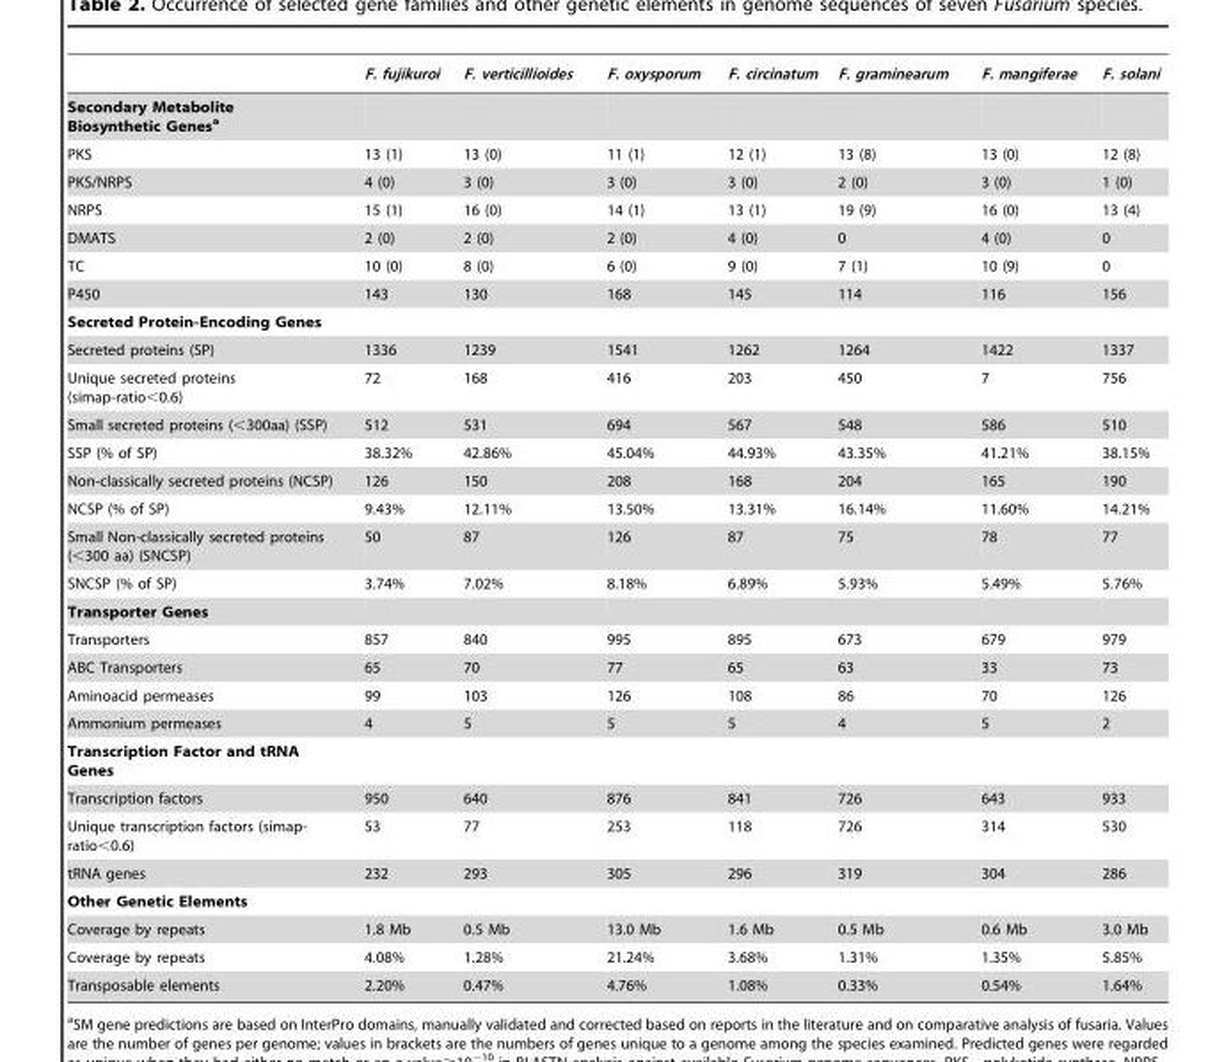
<table><thead><tr><td></td><td>F. fujikuroi</td><td>F. verticillioides</td><td>F. oxysporum</td><td>F. circinatum</td><td>F. graminearum</td><td>F. mangiferae</td><td>F. solani</td></tr></thead><tbody><tr><td colspan="8">Secondary Metabolite Biosynthetic Genesa</td></tr><tr><td>PKS</td><td>13 (1)</td><td>13 (0)</td><td>11 (1)</td><td>12 (1)</td><td>13 (8)</td><td>13 (0)</td><td>12 (8)</td></tr><tr><td>PKS/NRPS</td><td>4 (0)</td><td>3 (0)</td><td>3 (0)</td><td>3 (0)</td><td>2 (0)</td><td>3 (0)</td><td>1 (0)</td></tr><tr><td>NRPS</td><td>15 (1)</td><td>16 (0)</td><td>14 (1)</td><td>13 (1)</td><td>19 (9)</td><td>16 (0)</td><td>13 (4)</td></tr><tr><td>DMATS</td><td>2 (0)</td><td>2 (0)</td><td>2 (0)</td><td>4 (0)</td><td>0</td><td>4 (0)</td><td>0</td></tr><tr><td>TC</td><td>10 (0)</td><td>8 (0)</td><td>6 (0)</td><td>9 (0)</td><td>7 (1)</td><td>10 (9)</td><td>0</td></tr><tr><td>P450</td><td>143</td><td>130</td><td>168</td><td>145</td><td>114</td><td>116</td><td>156</td></tr><tr><td colspan="8">Secreted Protein-Encoding Genes</td></tr><tr><td>Secreted proteins (SP)</td><td>1336</td><td>1239</td><td>1541</td><td>1262</td><td>1264</td><td>1422</td><td>1337</td></tr><tr><td>Unique secreted proteins (simap-ratio&lt;0.6)</td><td>72</td><td>168</td><td>416</td><td>203</td><td>450</td><td>7</td><td>756</td></tr><tr><td>Small secreted proteins (&lt;300aa) (SSP)</td><td>512</td><td>531</td><td>694</td><td>567</td><td>548</td><td>586</td><td>510</td></tr><tr><td>SSP (% of SP)</td><td>38.32%</td><td>42.86%</td><td>45.04%</td><td>44.93%</td><td>43.35%</td><td>41.21%</td><td>38.15%</td></tr><tr><td>Non-classically secreted proteins (NCSP)</td><td>126</td><td>150</td><td>208</td><td>168</td><td>204</td><td>165</td><td>190</td></tr><tr><td>NCSP (% of SP)</td><td>9.43%</td><td>12.11%</td><td>13.50%</td><td>13.31%</td><td>16.14%</td><td>11.60%</td><td>14.21%</td></tr><tr><td>Small Non-classically secreted proteins (&lt;300 aa) (SNCSP)</td><td>50</td><td>87</td><td>126</td><td>87</td><td>75</td><td>78</td><td>77</td></tr><tr><td>SNCSP (% of SP)</td><td>3.74%</td><td>7.02%</td><td>8.18%</td><td>6.89%</td><td>5.93%</td><td>5.49%</td><td>5.76%</td></tr><tr><td colspan="8">Transporter Genes</td></tr><tr><td>Transporters</td><td>857</td><td>840</td><td>995</td><td>895</td><td>673</td><td>679</td><td>979</td></tr><tr><td>ABC Transporters</td><td>65</td><td>70</td><td>77</td><td>65</td><td>63</td><td>33</td><td>73</td></tr><tr><td>Aminoacid permeases</td><td>99</td><td>103</td><td>126</td><td>108</td><td>86</td><td>70</td><td>126</td></tr><tr><td>Ammonium permeases</td><td>4</td><td>5</td><td>5</td><td>5</td><td>4</td><td>5</td><td>2</td></tr><tr><td colspan="8">Transcription Factor and tRNA Genes</td></tr><tr><td>Transcription factors</td><td>950</td><td>640</td><td>876</td><td>841</td><td>726</td><td>643</td><td>933</td></tr><tr><td>Unique transcription factors (simap- ratio&lt;0.6)</td><td>53</td><td>77</td><td>253</td><td>118</td><td>726</td><td>314</td><td>530</td></tr><tr><td>tRNA genes</td><td>232</td><td>293</td><td>305</td><td>296</td><td>319</td><td>304</td><td>286</td></tr><tr><td colspan="8">Other Genetic Elements</td></tr><tr><td>Coverage by repeats</td><td>1.8 Mb</td><td>0.5 Mb</td><td>13.0 Mb</td><td>1.6 Mb</td><td>0.5 Mb</td><td>0.6 Mb</td><td>3.0 Mb</td></tr><tr><td>Coverage by repeats</td><td>4.08%</td><td>1.28%</td><td>21.24%</td><td>3.68%</td><td>1.31%</td><td>1.35%</td><td>5.85%</td></tr><tr><td>Transposable elements</td><td>2.20%</td><td>0.47%</td><td>4.76%</td><td>1.08%</td><td>0.33%</td><td>0.54%</td><td>1.64%</td></tr></tbody></table>